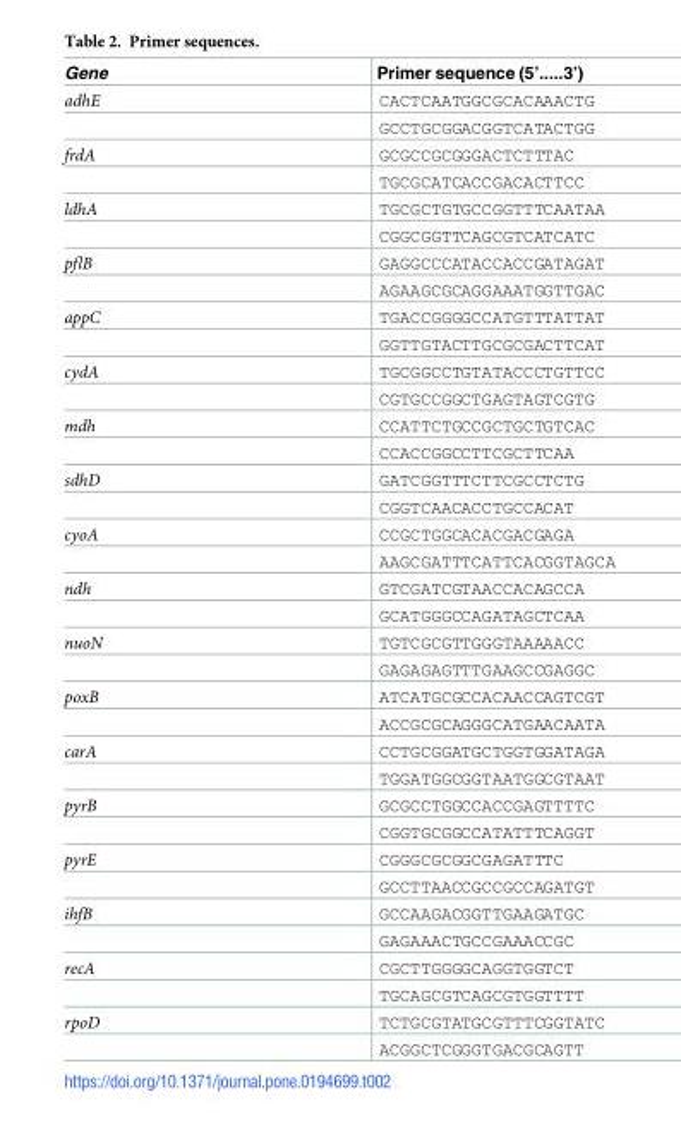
<table><thead><tr><td>Gene</td><td>Primer sequence (5’.....3’)</td></tr></thead><tbody><tr><td rowspan="2">adhE</td><td>CACTCAATGGCGCACAAACTG</td></tr><tr><td>GCCTGCGGACGGTCATACTGG</td></tr><tr><td rowspan="2">frdA</td><td>GCGCCGCGGGACTCTTTAC</td></tr><tr><td>TGCGCATCACCGACACTTCC</td></tr><tr><td rowspan="2">ldhA</td><td>TGCGCTGTGCCGGTTTCAATAA</td></tr><tr><td>CGGCGGTTCAGCGTCATCATC</td></tr><tr><td rowspan="2">pflB</td><td>GAGGCCCATACCACCGATAGAT</td></tr><tr><td>AGAAGCGCAGGAAATGGTTGAC</td></tr><tr><td rowspan="2">appC</td><td>TGACCGGGGCCATGTTTATTAT</td></tr><tr><td>GGTTGTACTTGCGCGACTTCAT</td></tr><tr><td rowspan="2">cydA</td><td>TGCGGCCTGTATACCCTGTTCC</td></tr><tr><td>CGTGCCGGCTGAGTAGTCGTG</td></tr><tr><td rowspan="2">mdh</td><td>CCATTCTGCCGCTGCTGTCAC</td></tr><tr><td>CCACCGGCCTTCGCTTCAA</td></tr><tr><td rowspan="2">sdhD</td><td>GATCGGTTTCTTCGCCTCTG</td></tr><tr><td>CGGTCAACACCTGCCACAT</td></tr><tr><td rowspan="2">cyoA</td><td>CCGCTGGCACACGACGAGA</td></tr><tr><td>AAGCGATTTCATTCACGGTAGCA</td></tr><tr><td rowspan="2">ndh</td><td>GTCGATCGTAACCACAGCCA</td></tr><tr><td>GCATGGGCCAGATAGCTCAA</td></tr><tr><td rowspan="2">nuoN</td><td>TGTCGCGTTGGGTAAAAACC</td></tr><tr><td>GAGAGAGTTTGAAGCCGAGGC</td></tr><tr><td rowspan="2">poxB</td><td>ATCATGCGCCACAACCAGTCGT</td></tr><tr><td>ACCGCGCAGGGCATGAACAATA</td></tr><tr><td rowspan="2">carA</td><td>CCTGCGGATGCTGGTGGATAGA</td></tr><tr><td>TGGATGGCGGTAATGGCGTAAT</td></tr><tr><td rowspan="2">pyrB</td><td>GCGCCTGGCCACCGAGTTTTC</td></tr><tr><td>CGGTGCGGCCATATTTCAGGT</td></tr><tr><td rowspan="2">pyrE</td><td>CGGGCGCGGCGAGATTTC</td></tr><tr><td>GCCTTAACCGCCGCCAGATGT</td></tr><tr><td rowspan="2">ihfB</td><td>GCCAAGACGGTTGAAGATGC</td></tr><tr><td>GAGAAACTGCCGAAACCGC</td></tr><tr><td rowspan="2">recA</td><td>CGCTTGGGGCAGGTGGTCT</td></tr><tr><td>TGCAGCGTCAGCGTGGTTTT</td></tr><tr><td rowspan="2">rpoD</td><td>TCTGCGTATGCGTTTCGGTATC</td></tr><tr><td>ACGGCTCGGGTGACGCAGTT</td></tr></tbody></table>